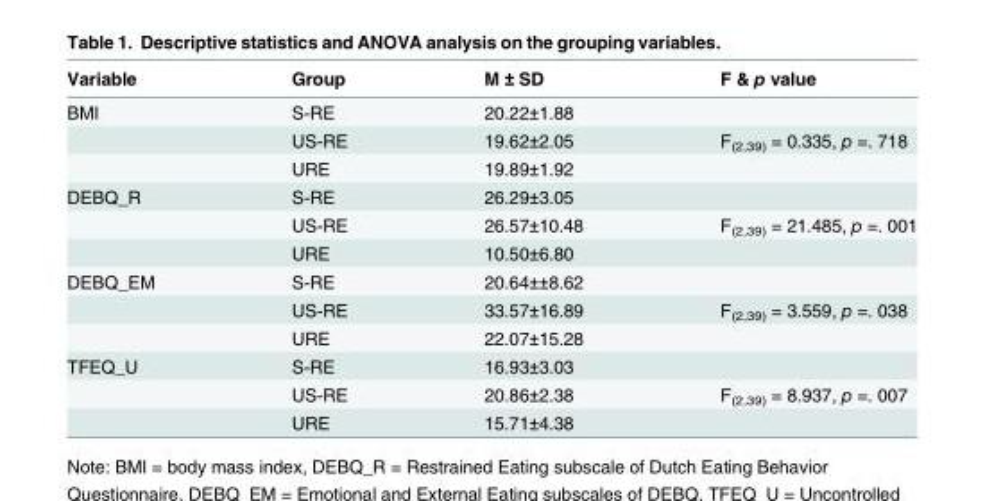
<table><thead><tr><td>Variable</td><td>Group</td><td>M ± SD</td><td>F &amp; p value</td></tr></thead><tbody><tr><td rowspan="3">BMI</td><td>S-RE</td><td>20.22±1.88</td><td></td></tr><tr><td>US-RE</td><td>19.62±2.05</td><td>F<sub>(2,39)</sub> = 0.335, p =. 718</td></tr><tr><td>URE</td><td>19.89±1.92</td><td></td></tr><tr><td rowspan="3">DEBQ_R</td><td>S-RE</td><td>26.29±3.05</td><td></td></tr><tr><td>US-RE</td><td>26.57±10.48</td><td>F<sub>(2,39)</sub> = 21.485, p =. 001</td></tr><tr><td>URE</td><td>10.50±6.80</td><td></td></tr><tr><td rowspan="3">DEBQ_EM</td><td>S-RE</td><td>20.64±±8.62</td><td></td></tr><tr><td>US-RE</td><td>33.57±16.89</td><td>F<sub>(2,39)</sub> = 3.559, p =. 038</td></tr><tr><td>URE</td><td>22.07±15.28</td><td></td></tr><tr><td rowspan="3">TFEQ_U</td><td>S-RE</td><td>16.93±3.03</td><td></td></tr><tr><td>US-RE</td><td>20.86±2.38</td><td>F<sub>(2,39)</sub> = 8.937, p =. 007</td></tr><tr><td>URE</td><td>15.71±4.38</td><td></td></tr></tbody></table>